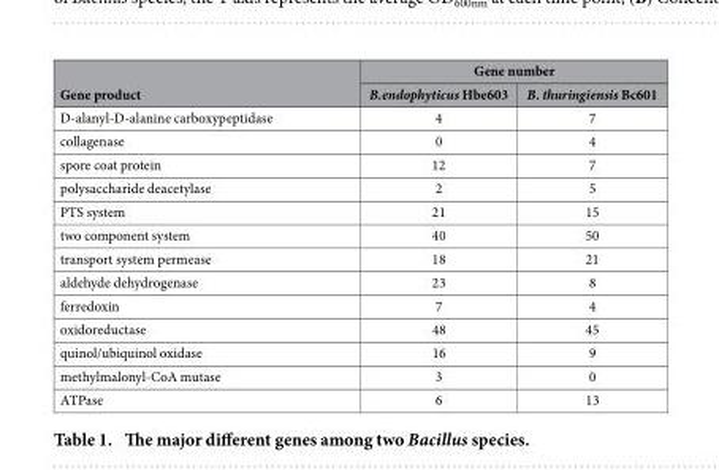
<table><thead><tr><td rowspan="2">Gene product</td><td colspan="2">Gene number</td></tr><tr><td>B.endophyticus Hbe603</td><td>B. thuringiensis Bc601</td></tr></thead><tbody><tr><td>D-alanyl-D-alanine carboxypeptidase</td><td>4</td><td>7</td></tr><tr><td>collagenase</td><td>0</td><td>4</td></tr><tr><td>spore coat protein</td><td>12</td><td>7</td></tr><tr><td>polysaccharide deacetylase</td><td>2</td><td>5</td></tr><tr><td>PTS system</td><td>21</td><td>15</td></tr><tr><td>two component system</td><td>40</td><td>50</td></tr><tr><td>transport system permease</td><td>18</td><td>21</td></tr><tr><td>aldehyde dehydrogenase</td><td>23</td><td>8</td></tr><tr><td>ferredoxin</td><td>7</td><td>4</td></tr><tr><td>oxidoreductase</td><td>48</td><td>45</td></tr><tr><td>quinol/ubiquinol oxidase</td><td>16</td><td>9</td></tr><tr><td>methylmalonyl-CoA mutase</td><td>3</td><td>0</td></tr><tr><td>ATPase</td><td>6</td><td>13</td></tr></tbody></table>